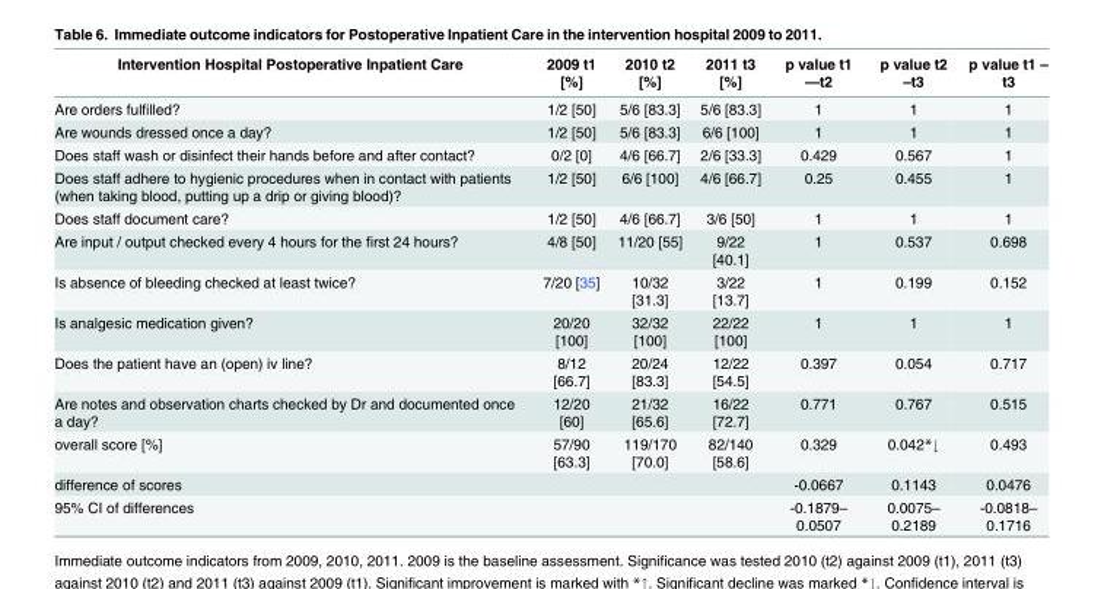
<table><thead><tr><td>Intervention Hospital Postoperative Inpatient Care</td><td>2009 t1 [%]</td><td>2010 t2 [%]</td><td>2011 t3 [%]</td><td>p value t1 —t2</td><td>p value t2 –t3</td><td>p value t1 – t3</td></tr></thead><tbody><tr><td>Are orders fulfilled?</td><td>1/2 [50]</td><td>5/6 [83.3]</td><td>5/6 [83.3]</td><td>1</td><td>1</td><td>1</td></tr><tr><td>Are wounds dressed once a day?</td><td>1/2 [50]</td><td>5/6 [83.3]</td><td>6/6 [100]</td><td>1</td><td>1</td><td>1</td></tr><tr><td>Does staff wash or disinfect their hands before and after contact?</td><td>0/2 [0]</td><td>4/6 [66.7]</td><td>2/6 [33.3]</td><td>0.429</td><td>0.567</td><td>1</td></tr><tr><td>Does staff adhere to hygienic procedures when in contact with patients (when taking blood, putting up a drip or giving blood)?</td><td>1/2 [50]</td><td>6/6 [100]</td><td>4/6 [66.7]</td><td>0.25</td><td>0.455</td><td>1</td></tr><tr><td>Does staff document care?</td><td>1/2 [50]</td><td>4/6 [66.7]</td><td>3/6 [50]</td><td>1</td><td>1</td><td>1</td></tr><tr><td>Are input / output checked every 4 hours for the first 24 hours?</td><td>4/8 [50]</td><td>11/20 [55]</td><td>9/22 [40.1]</td><td>1</td><td>0.537</td><td>0.698</td></tr><tr><td>Is absence of bleeding checked at least twice?</td><td>7/20 [35]</td><td>10/32 [31.3]</td><td>3/22 [13.7]</td><td>1</td><td>0.199</td><td>0.152</td></tr><tr><td>Is analgesic medication given?</td><td>20/20 [100]</td><td>32/32 [100]</td><td>22/22 [100]</td><td>1</td><td>1</td><td>1</td></tr><tr><td>Does the patient have an (open) iv line?</td><td>8/12 [66.7]</td><td>20/24 [83.3]</td><td>12/22 [54.5]</td><td>0.397</td><td>0.054</td><td>0.717</td></tr><tr><td>Are notes and observation charts checked by Dr and documented once a day?</td><td>12/20 [60]</td><td>21/32 [65.6]</td><td>16/22 [72.7]</td><td>0.771</td><td>0.767</td><td>0.515</td></tr><tr><td>overall score [%]</td><td>57/90 [63.3]</td><td>119/170 [70.0]</td><td>82/140 [58.6]</td><td>0.329</td><td>0.042*↓</td><td>0.493</td></tr><tr><td>difference of scores</td><td></td><td></td><td></td><td>-0.0667</td><td>0.1143</td><td>0.0476</td></tr><tr><td>95% CI of differences</td><td></td><td></td><td></td><td>-0.1879– 0.0507</td><td>0.0075– 0.2189</td><td>-0.0818– 0.1716</td></tr></tbody></table>